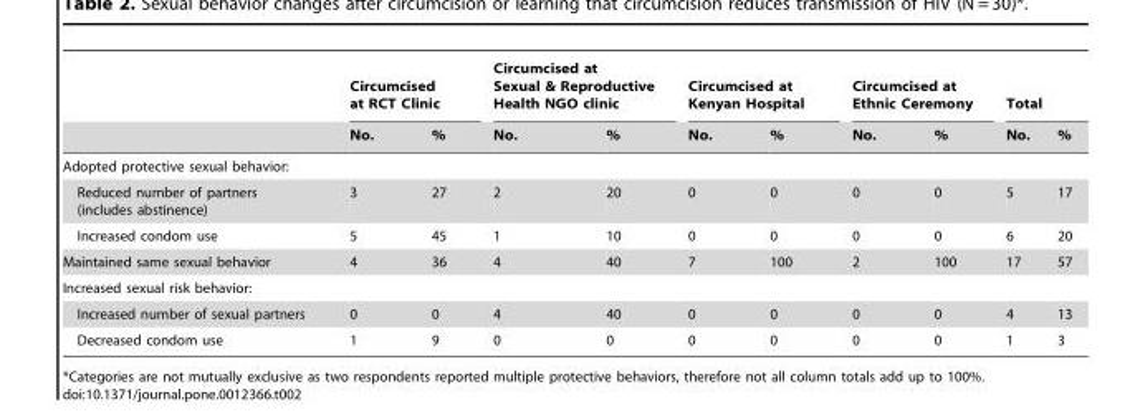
<table><thead><tr><td rowspan="2"></td><td colspan="2">Circumcised at RCT Clinic</td><td colspan="2">Circumcised at Sexual &amp; Reproductive Health NGO clinic</td><td colspan="2">Circumcised at Kenyan Hospital</td><td colspan="2">Circumcised at Ethnic Ceremony</td><td colspan="2">Total</td></tr><tr><td>No.</td><td>%</td><td>No.</td><td>%</td><td>No.</td><td>%</td><td>No.</td><td>%</td><td>No.</td><td>%</td></tr></thead><tbody><tr><td colspan="11">Adopted protective sexual behavior:</td></tr><tr><td>Reduced number of partners (includes abstinence)</td><td>3</td><td>27</td><td>2</td><td>20</td><td>0</td><td>0</td><td>0</td><td>0</td><td>5</td><td>17</td></tr><tr><td>Increased condom use</td><td>5</td><td>45</td><td>1</td><td>10</td><td>0</td><td>0</td><td>0</td><td>0</td><td>6</td><td>20</td></tr><tr><td>Maintained same sexual behavior</td><td>4</td><td>36</td><td>4</td><td>40</td><td>7</td><td>100</td><td>2</td><td>100</td><td>17</td><td>57</td></tr><tr><td colspan="11">Increased sexual risk behavior:</td></tr><tr><td>Increased number of sexual partners</td><td>0</td><td>0</td><td>4</td><td>40</td><td>0</td><td>0</td><td>0</td><td>0</td><td>4</td><td>13</td></tr><tr><td>Decreased condom use</td><td>1</td><td>9</td><td>0</td><td>0</td><td>0</td><td>0</td><td>0</td><td>0</td><td>1</td><td>3</td></tr></tbody></table>